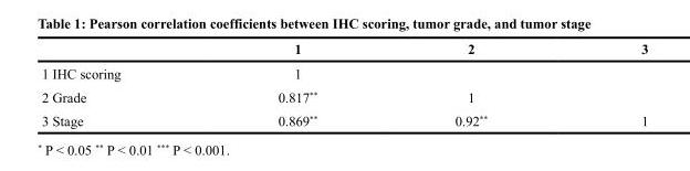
<table><thead><tr><td></td><td>1</td><td>2</td><td>3</td></tr></thead><tbody><tr><td>1 IHC scoring</td><td>1</td><td></td><td></td></tr><tr><td>2 Grade</td><td>0.817**</td><td>1</td><td></td></tr><tr><td>3 Stage</td><td>0.869**</td><td>0.92**</td><td>1</td></tr></tbody></table>